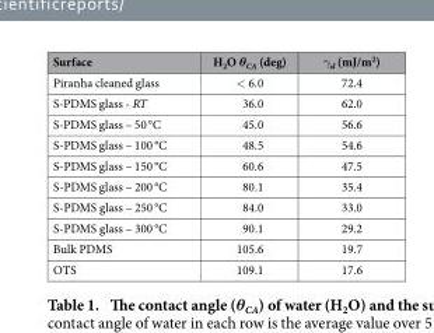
<table><thead><tr><td>Surface</td><td>H<sub>2</sub>O θ<sub>CA</sub> (deg)</td><td>γ<sub>sl</sub> (mJ/m<sup>2</sup>)</td></tr></thead><tbody><tr><td>Piranha cleaned glass</td><td>&lt; 6.0</td><td>72.4</td></tr><tr><td>S-PDMS glass - RT</td><td>36.0</td><td>62.0</td></tr><tr><td>S-PDMS glass – 50 °C</td><td>45.0</td><td>56.6</td></tr><tr><td>S-PDMS glass – 100 °C</td><td>48.5</td><td>54.6</td></tr><tr><td>S-PDMS glass – 150 °C</td><td>60.6</td><td>47.5</td></tr><tr><td>S-PDMS glass – 200 °C</td><td>80.1</td><td>35.4</td></tr><tr><td>S-PDMS glass – 250 °C</td><td>84.0</td><td>33.0</td></tr><tr><td>S-PDMS glass – 300 °C</td><td>90.1</td><td>29.2</td></tr><tr><td>Bulk PDMS</td><td>105.6</td><td>19.7</td></tr><tr><td>OTS</td><td>109.1</td><td>17.6</td></tr></tbody></table>